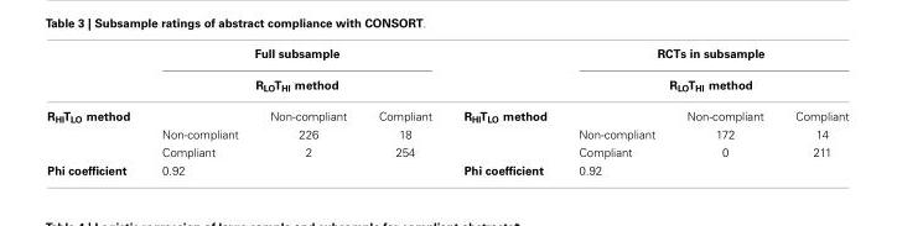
<table><thead><tr><td rowspan="3">R<sub>HI</sub>T<sub>LO</sub> method</td><td rowspan="2" colspan="3">Full subsample R<sub>LO</sub>T<sub>HI</sub> method</td><td rowspan="3">R<sub>HI</sub>T<sub>LO</sub> method</td><td rowspan="2" colspan="3">RCTs in subsample R<sub>LO</sub>T<sub>HI</sub> method</td></tr><tr></tr><tr><td></td><td>Non-compliant</td><td>Compliant</td><td></td><td>Non-compliant</td><td>Compliant</td></tr></thead><tbody><tr><td></td><td>Non-compliant</td><td>226</td><td>18</td><td></td><td>Non-compliant</td><td>172</td><td>14</td></tr><tr><td></td><td>Compliant</td><td>2</td><td>254</td><td></td><td>Compliant</td><td>0</td><td>211</td></tr><tr><td>Phi coefficient</td><td>0.92</td><td></td><td></td><td>Phi coefficient</td><td>0.92</td><td></td><td></td></tr></tbody></table>